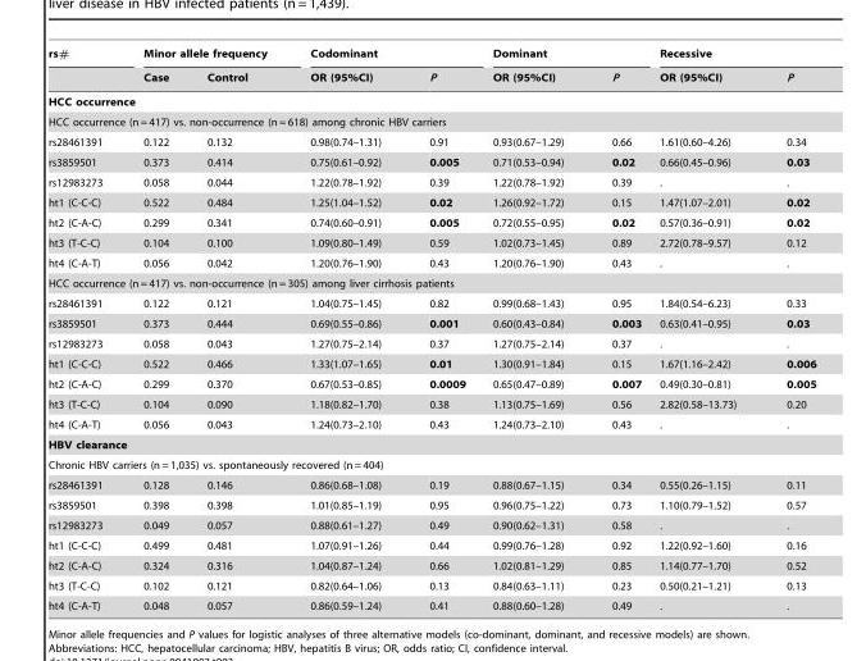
<table><thead><tr><td rowspan="2">rs#</td><td colspan="2">Minor allele frequency</td><td colspan="2">Codominant</td><td colspan="2">Dominant</td><td colspan="2">Recessive</td></tr><tr><td>Case</td><td>Control</td><td>OR (95%CI)</td><td>P</td><td>OR (95%CI)</td><td>P</td><td>OR (95%CI)</td><td>P</td></tr></thead><tbody><tr><td colspan="9">HCC occurrence</td></tr><tr><td colspan="9">HCC occurrence (n = 417) vs. non-occurrence (n = 618) among chronic HBV carriers</td></tr><tr><td>rs28461391</td><td>0.122</td><td>0.132</td><td>0.98(0.74–1.31)</td><td>0.91</td><td>0.93(0.67–1.29)</td><td>0.66</td><td>1.61(0.60–4.26)</td><td>0.34</td></tr><tr><td>rs3859501</td><td>0.373</td><td>0.414</td><td>0.75(0.61–0.92)</td><td>0.005</td><td>0.71(0.53–0.94)</td><td>0.02</td><td>0.66(0.45–0.96)</td><td>0.03</td></tr><tr><td>rs12983273</td><td>0.058</td><td>0.044</td><td>1.22(0.78–1.92)</td><td>0.39</td><td>1.22(0.78–1.92)</td><td>0.39</td><td>.</td><td>.</td></tr><tr><td>ht1 (C-C-C)</td><td>0.522</td><td>0.484</td><td>1.25(1.04–1.52)</td><td>0.02</td><td>1.26(0.92–1.72)</td><td>0.15</td><td>1.47(1.07–2.01)</td><td>0.02</td></tr><tr><td>ht2 (C-A-C)</td><td>0.299</td><td>0.341</td><td>0.74(0.60–0.91)</td><td>0.005</td><td>0.72(0.55–0.95)</td><td>0.02</td><td>0.57(0.36–0.91)</td><td>0.02</td></tr><tr><td>ht3 (T-C-C)</td><td>0.104</td><td>0.100</td><td>1.09(0.80–1.49)</td><td>0.59</td><td>1.02(0.73–1.45)</td><td>0.89</td><td>2.72(0.78–9.57)</td><td>0.12</td></tr><tr><td>ht4 (C-A-T)</td><td>0.056</td><td>0.042</td><td>1.20(0.76–1.90)</td><td>0.43</td><td>1.20(0.76–1.90)</td><td>0.43</td><td>.</td><td>.</td></tr><tr><td colspan="9">HCC occurrence (n = 417) vs. non-occurrence (n = 305) among liver cirrhosis patients</td></tr><tr><td>rs28461391</td><td>0.122</td><td>0.121</td><td>1.04(0.75–1.45)</td><td>0.82</td><td>0.99(0.68–1.43)</td><td>0.95</td><td>1.84(0.54–6.23)</td><td>0.33</td></tr><tr><td>rs3859501</td><td>0.373</td><td>0.444</td><td>0.69(0.55–0.86)</td><td>0.001</td><td>0.60(0.43–0.84)</td><td>0.003</td><td>0.63(0.41–0.95)</td><td>0.03</td></tr><tr><td>rs12983273</td><td>0.058</td><td>0.043</td><td>1.27(0.75–2.14)</td><td>0.37</td><td>1.27(0.75–2.14)</td><td>0.37</td><td>.</td><td>.</td></tr><tr><td>ht1 (C-C-C)</td><td>0.522</td><td>0.466</td><td>1.33(1.07–1.65)</td><td>0.01</td><td>1.30(0.91–1.84)</td><td>0.15</td><td>1.67(1.16–2.42)</td><td>0.006</td></tr><tr><td>ht2 (C-A-C)</td><td>0.299</td><td>0.370</td><td>0.67(0.53–0.85)</td><td>0.0009</td><td>0.65(0.47–0.89)</td><td>0.007</td><td>0.49(0.30–0.81)</td><td>0.005</td></tr><tr><td>ht3 (T-C-C)</td><td>0.104</td><td>0.090</td><td>1.18(0.82–1.70)</td><td>0.38</td><td>1.13(0.75–1.69)</td><td>0.56</td><td>2.82(0.58–13.73)</td><td>0.20</td></tr><tr><td>ht4 (C-A-T)</td><td>0.056</td><td>0.043</td><td>1.24(0.73–2.10)</td><td>0.43</td><td>1.24(0.73–2.10)</td><td>0.43</td><td>.</td><td>.</td></tr><tr><td colspan="9">HBV clearance</td></tr><tr><td colspan="9">Chronic HBV carriers (n = 1,035) vs. spontaneously recovered (n = 404)</td></tr><tr><td>rs28461391</td><td>0.128</td><td>0.146</td><td>0.86(0.68–1.08)</td><td>0.19</td><td>0.88(0.67–1.15)</td><td>0.34</td><td>0.55(0.26–1.15)</td><td>0.11</td></tr><tr><td>rs3859501</td><td>0.398</td><td>0.398</td><td>1.01(0.85–1.19)</td><td>0.95</td><td>0.96(0.75–1.22)</td><td>0.73</td><td>1.10(0.79–1.52)</td><td>0.57</td></tr><tr><td>rs12983273</td><td>0.049</td><td>0.057</td><td>0.88(0.61–1.27)</td><td>0.49</td><td>0.90(0.62–1.31)</td><td>0.58</td><td>.</td><td>.</td></tr><tr><td>ht1 (C-C-C)</td><td>0.499</td><td>0.481</td><td>1.07(0.91–1.26)</td><td>0.44</td><td>0.99(0.76–1.28)</td><td>0.92</td><td>1.22(0.92–1.60)</td><td>0.16</td></tr><tr><td>ht2 (C-A-C)</td><td>0.324</td><td>0.316</td><td>1.04(0.87–1.24)</td><td>0.66</td><td>1.02(0.81–1.29)</td><td>0.85</td><td>1.14(0.77–1.70)</td><td>0.52</td></tr><tr><td>ht3 (T-C-C)</td><td>0.102</td><td>0.121</td><td>0.82(0.64–1.06)</td><td>0.13</td><td>0.84(0.63–1.11)</td><td>0.23</td><td>0.50(0.21–1.21)</td><td>0.13</td></tr><tr><td>ht4 (C-A-T)</td><td>0.048</td><td>0.057</td><td>0.86(0.59–1.24)</td><td>0.41</td><td>0.88(0.60–1.28)</td><td>0.49</td><td>.</td><td>.</td></tr></tbody></table>